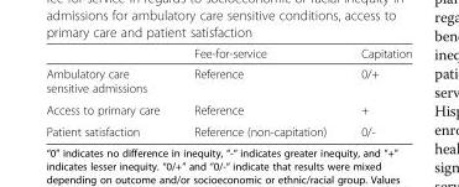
<table><thead><tr><td></td><td>Fee-for-service</td><td>Capitation</td></tr></thead><tbody><tr><td>Ambulatory care sensitive admissions</td><td>Reference</td><td>0/+</td></tr><tr><td>Access to primary care</td><td>Reference</td><td>+</td></tr><tr><td>Patient satisfaction</td><td>Reference (non-capitation)</td><td>0/-</td></tr></tbody></table>